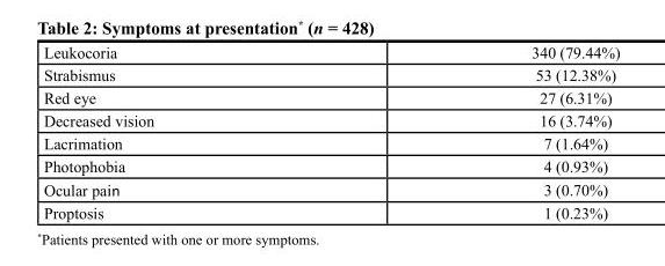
<table><tbody><tr><td>Leukocoria</td><td>340 (79.44%)</td></tr><tr><td>Strabismus</td><td>53 (12.38%)</td></tr><tr><td>Red eye</td><td>27 (6.31%)</td></tr><tr><td>Decreased vision</td><td>16 (3.74%)</td></tr><tr><td>Lacrimation</td><td>7 (1.64%)</td></tr><tr><td>Photophobia</td><td>4 (0.93%)</td></tr><tr><td>Ocular pain</td><td>3 (0.70%)</td></tr><tr><td>Proptosis</td><td>1 (0.23%)</td></tr></tbody></table>